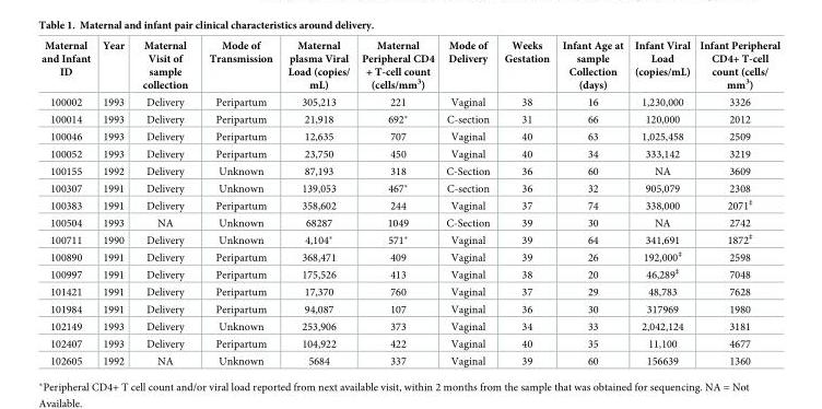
<table><thead><tr><td>Maternal and Infant ID</td><td>Year</td><td>Maternal Visit of sample collection</td><td>Mode of Transmission</td><td>Maternal plasma Viral Load (copies/ mL)</td><td>Maternal Peripheral CD4 + T-cell count (cells/mm<sup>3</sup>)</td><td>Mode of Delivery</td><td>Weeks Gestation</td><td>Infant Age at sample Collection (days)</td><td>Infant Viral Load (copies/mL)</td><td>Infant Peripheral CD4+ T-cell count (cells/ mm<sup>3</sup>)</td></tr></thead><tbody><tr><td>100002</td><td>1993</td><td>Delivery</td><td>Peripartum</td><td>305,213</td><td>221</td><td>Vaginal</td><td>38</td><td>16</td><td>1,230,000</td><td>3326</td></tr><tr><td>100014</td><td>1993</td><td>Delivery</td><td>Peripartum</td><td>21,918</td><td>692*</td><td>C-section</td><td>31</td><td>66</td><td>120,000</td><td>2012</td></tr><tr><td>100046</td><td>1993</td><td>Delivery</td><td>Peripartum</td><td>12,635</td><td>707</td><td>Vaginal</td><td>40</td><td>63</td><td>1,025,458</td><td>2509</td></tr><tr><td>100052</td><td>1993</td><td>Delivery</td><td>Peripartum</td><td>23,750</td><td>450</td><td>Vaginal</td><td>40</td><td>34</td><td>333,142</td><td>3219</td></tr><tr><td>100155</td><td>1992</td><td>Delivery</td><td>Unknown</td><td>87,193</td><td>318</td><td>C-Section</td><td>36</td><td>60</td><td>NA</td><td>3609</td></tr><tr><td>100307</td><td>1991</td><td>Delivery</td><td>Unknown</td><td>139,053</td><td>467*</td><td>C-section</td><td>36</td><td>32</td><td>905,079</td><td>2308</td></tr><tr><td>100383</td><td>1991</td><td>Delivery</td><td>Peripartum</td><td>358,602</td><td>244</td><td>Vaginal</td><td>37</td><td>74</td><td>338,000</td><td>2071<sup>‡</sup></td></tr><tr><td>100504</td><td>1993</td><td>NA</td><td>Unknown</td><td>68287</td><td>1049</td><td>C-Section</td><td>39</td><td>30</td><td>NA</td><td>2742</td></tr><tr><td>100711</td><td>1990</td><td>Delivery</td><td>Unknown</td><td>4,104*</td><td>571*</td><td>Vaginal</td><td>39</td><td>64</td><td>341,691</td><td>1872<sup>‡</sup></td></tr><tr><td>100890</td><td>1991</td><td>Delivery</td><td>Peripartum</td><td>368,471</td><td>409</td><td>Vaginal</td><td>39</td><td>26</td><td>192,000<sup>‡</sup></td><td>2598</td></tr><tr><td>100997</td><td>1991</td><td>Delivery</td><td>Peripartum</td><td>175,526</td><td>413</td><td>Vaginal</td><td>38</td><td>20</td><td>46,289<sup>‡</sup></td><td>7048</td></tr><tr><td>101421</td><td>1991</td><td>Delivery</td><td>Peripartum</td><td>17,370</td><td>760</td><td>Vaginal</td><td>37</td><td>29</td><td>48,783</td><td>7628</td></tr><tr><td>101984</td><td>1991</td><td>Delivery</td><td>Peripartum</td><td>94,087</td><td>107</td><td>Vaginal</td><td>36</td><td>30</td><td>317969</td><td>1980</td></tr><tr><td>102149</td><td>1993</td><td>Delivery</td><td>Unknown</td><td>253,906</td><td>373</td><td>Vaginal</td><td>34</td><td>33</td><td>2,042,124</td><td>3181</td></tr><tr><td>102407</td><td>1993</td><td>Delivery</td><td>Peripartum</td><td>104,922</td><td>422</td><td>Vaginal</td><td>40</td><td>35</td><td>11,100</td><td>4677</td></tr><tr><td>102605</td><td>1992</td><td>NA</td><td>Unknown</td><td>5684</td><td>337</td><td>Vaginal</td><td>39</td><td>60</td><td>156639</td><td>1360</td></tr></tbody></table>